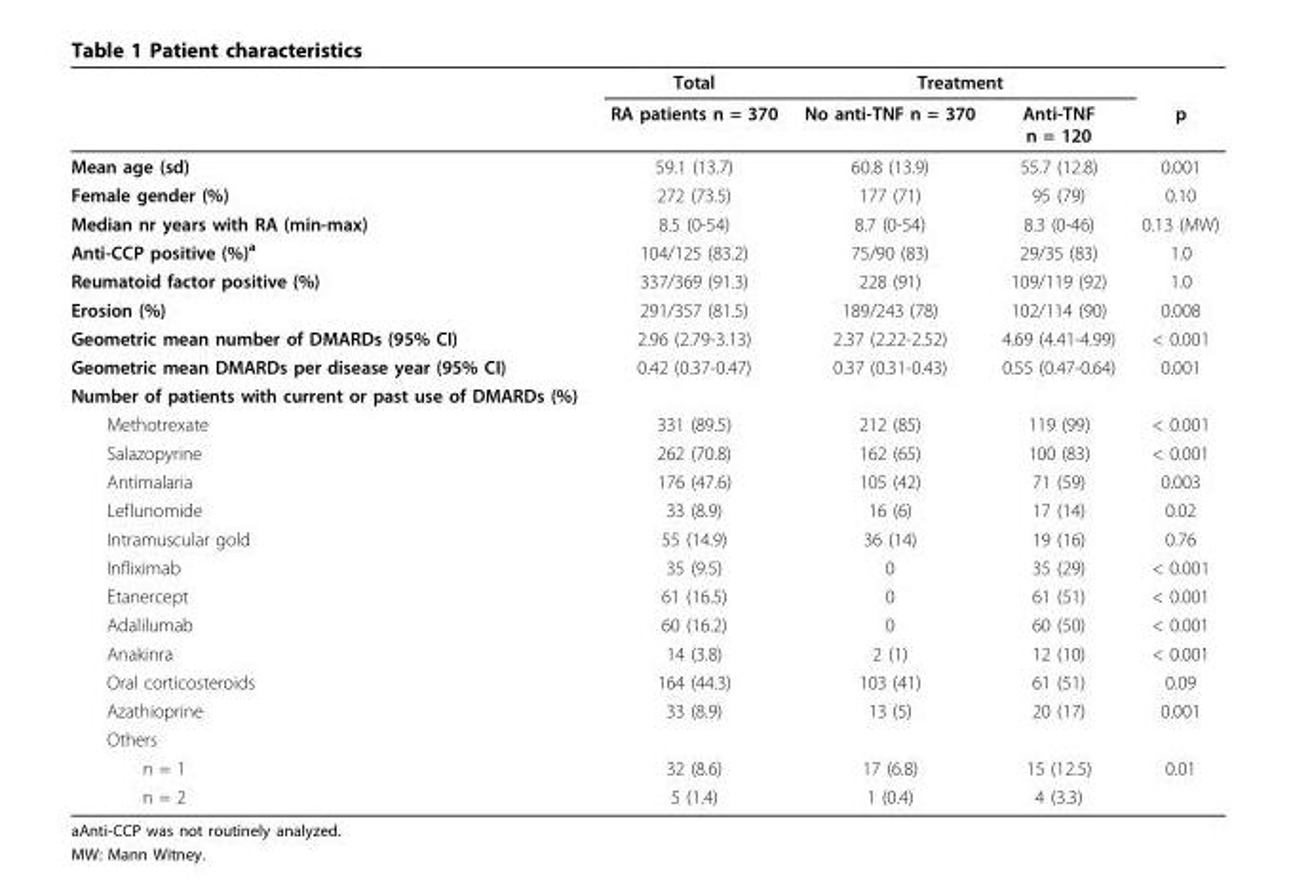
<table><thead><tr><td rowspan="2"></td><td rowspan="2">Total RA patients n = 370</td><td colspan="2">Treatment</td><td rowspan="2">p</td></tr><tr><td>No anti-TNF n = 370</td><td>Anti-TNF n = 120</td></tr></thead><tbody><tr><td>Mean age (sd)</td><td>59.1 (13.7)</td><td>60.8 (13.9)</td><td>55.7 (12.8)</td><td>0.001</td></tr><tr><td>Female gender (%)</td><td>272 (73.5)</td><td>177 (71)</td><td>95 (79)</td><td>0.10</td></tr><tr><td>Median nr years with RA (min-max)</td><td>8.5 (0-54)</td><td>8.7 (0-54)</td><td>8.3 (0-46)</td><td>0.13 (MW)</td></tr><tr><td>Anti-CCP positive (%)<sup>a</sup></td><td>104/125 (83.2)</td><td>75/90 (83)</td><td>29/35 (83)</td><td>1.0</td></tr><tr><td>Reumatoid factor positive (%)</td><td>337/369 (91.3)</td><td>228 (91)</td><td>109/119 (92)</td><td>1.0</td></tr><tr><td>Erosion (%)</td><td>291/357 (81.5)</td><td>189/243 (78)</td><td>102/114 (90)</td><td>0.008</td></tr><tr><td>Geometric mean number of DMARDs (95% CI)</td><td>2.96 (2.79-3.13)</td><td>2.37 (2.22-2.52)</td><td>4.69 (4.41-4.99)</td><td>&lt; 0.001</td></tr><tr><td>Geometric mean DMARDs per disease year (95% CI)</td><td>0.42 (0.37-0.47)</td><td>0.37 (0.31-0.43)</td><td>0.55 (0.47-0.64)</td><td>0.001</td></tr><tr><td colspan="5">Number of patients with current or past use of DMARDs (%)</td></tr><tr><td>Methotrexate</td><td>331 (89.5)</td><td>212 (85)</td><td>119 (99)</td><td>&lt; 0.001</td></tr><tr><td>Salazopyrine</td><td>262 (70.8)</td><td>162 (65)</td><td>100 (83)</td><td>&lt; 0.001</td></tr><tr><td>Antimalaria</td><td>176 (47.6)</td><td>105 (42)</td><td>71 (59)</td><td>0.003</td></tr><tr><td>Leflunomide</td><td>33 (8.9)</td><td>16 (6)</td><td>17 (14)</td><td>0.02</td></tr><tr><td>Intramuscular gold</td><td>55 (14.9)</td><td>36 (14)</td><td>19 (16)</td><td>0.76</td></tr><tr><td>Infliximab</td><td>35 (9.5)</td><td>0</td><td>35 (29)</td><td>&lt; 0.001</td></tr><tr><td>Etanercept</td><td>61 (16.5)</td><td>0</td><td>61 (51)</td><td>&lt; 0.001</td></tr><tr><td>Adalilumab</td><td>60 (16.2)</td><td>0</td><td>60 (50)</td><td>&lt; 0.001</td></tr><tr><td>Anakinra</td><td>14 (3.8)</td><td>2 (1)</td><td>12 (10)</td><td>&lt; 0.001</td></tr><tr><td>Oral corticosteroids</td><td>164 (44.3)</td><td>103 (41)</td><td>61 (51)</td><td>0.09</td></tr><tr><td>Azathioprine</td><td>33 (8.9)</td><td>13 (5)</td><td>20 (17)</td><td>0.001</td></tr><tr><td colspan="5">Others</td></tr><tr><td>n = 1</td><td>32 (8.6)</td><td>17 (6.8)</td><td>15 (12.5)</td><td>0.01</td></tr><tr><td>n = 2</td><td>5 (1.4)</td><td>1 (0.4)</td><td>4 (3.3)</td><td></td></tr></tbody></table>